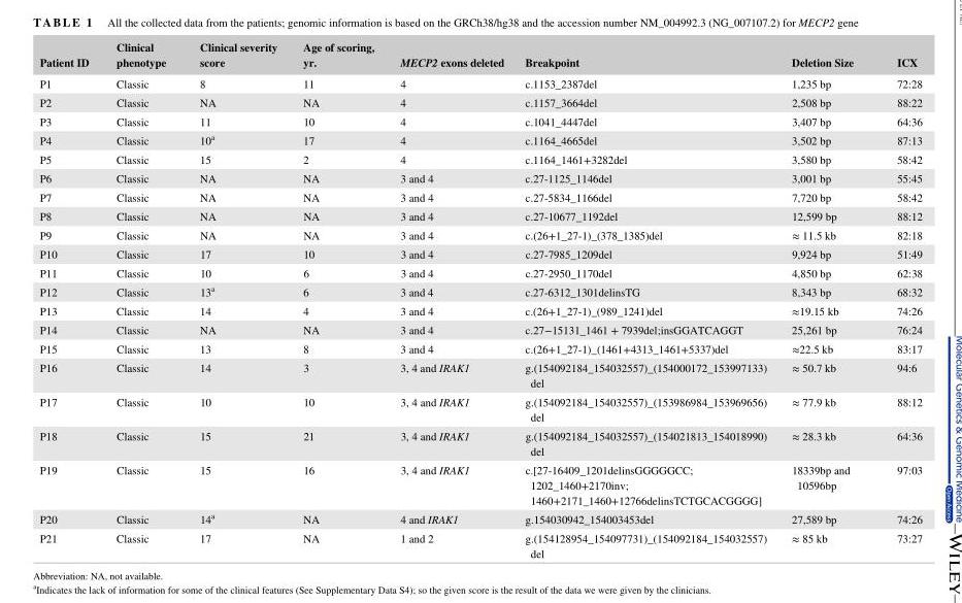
<table><thead><tr><td>Patient ID</td><td>Clinical phenotype</td><td>Clinical severity score</td><td>Age of scoring, yr.</td><td>MECP2 exons deleted</td><td>Breakpoint</td><td>Deletion Size</td><td>ICX</td></tr></thead><tbody><tr><td>P1</td><td>Classic</td><td>8</td><td>11</td><td>4</td><td>c.1153_2387del</td><td>1,235 bp</td><td>72:28</td></tr><tr><td>P2</td><td>Classic</td><td>NA</td><td>NA</td><td>4</td><td>c.1157_3664del</td><td>2,508 bp</td><td>88:22</td></tr><tr><td>P3</td><td>Classic</td><td>11</td><td>10</td><td>4</td><td>c.1041_4447del</td><td>3,407 bp</td><td>64:36</td></tr><tr><td>P4</td><td>Classic</td><td>10<sup>a</sup></td><td>17</td><td>4</td><td>c.1164_4665del</td><td>3,502 bp</td><td>87:13</td></tr><tr><td>P5</td><td>Classic</td><td>15</td><td>2</td><td>4</td><td>c.1164_1461+3282del</td><td>3,580 bp</td><td>58:42</td></tr><tr><td>P6</td><td>Classic</td><td>NA</td><td>NA</td><td>3 and 4</td><td>c.27‐1125_1146del</td><td>3,001 bp</td><td>55:45</td></tr><tr><td>P7</td><td>Classic</td><td>NA</td><td>NA</td><td>3 and 4</td><td>c.27‐5834_1166del</td><td>7,720 bp</td><td>58:42</td></tr><tr><td>P8</td><td>Classic</td><td>NA</td><td>NA</td><td>3 and 4</td><td>c.27‐10677_1192del</td><td>12,599 bp</td><td>88:12</td></tr><tr><td>P9</td><td>Classic</td><td>NA</td><td>NA</td><td>3 and 4</td><td>c.(26+1_27‐1)_(378_1385)del</td><td>≈ 11.5 kb</td><td>82:18</td></tr><tr><td>P10</td><td>Classic</td><td>17</td><td>10</td><td>3 and 4</td><td>c.27‐7985_1209del</td><td>9,924 bp</td><td>51:49</td></tr><tr><td>P11</td><td>Classic</td><td>10</td><td>6</td><td>3 and 4</td><td>c.27‐2950_1170del</td><td>4,850 bp</td><td>62:38</td></tr><tr><td>P12</td><td>Classic</td><td>13<sup>a</sup></td><td>6</td><td>3 and 4</td><td>c.27‐6312_1301delinsTG</td><td>8,343 bp</td><td>68:32</td></tr><tr><td>P13</td><td>Classic</td><td>14</td><td>4</td><td>3 and 4</td><td>c.(26+1_27‐1)_(989_1241)del</td><td>≈19.15 kb</td><td>74:26</td></tr><tr><td>P14</td><td>Classic</td><td>NA</td><td>NA</td><td>3 and 4</td><td>c.27−15131_1461 + 7939del;insGGATCAGGT</td><td>25,261 bp</td><td>76:24</td></tr><tr><td>P15</td><td>Classic</td><td>13</td><td>8</td><td>3 and 4</td><td>c.(26+1_27‐1)_(1461+4313_1461+5337)del</td><td>≈22.5 kb</td><td>83:17</td></tr><tr><td>P16</td><td>Classic</td><td>14</td><td>3</td><td>3, 4 and IRAK1</td><td>g.(154092184_154032557)_(154000172_153997133) del</td><td>≈ 50.7 kb</td><td>94:6</td></tr><tr><td>P17</td><td>Classic</td><td>10</td><td>10</td><td>3, 4 and IRAK1</td><td>g.(154092184_154032557)_(153986984_153969656) del</td><td>≈ 77.9 kb</td><td>88:12</td></tr><tr><td>P18</td><td>Classic</td><td>15</td><td>21</td><td>3, 4 and IRAK1</td><td>g.(154092184_154032557)_(154021813_154018990) del</td><td>≈ 28.3 kb</td><td>64:36</td></tr><tr><td>P19</td><td>Classic</td><td>15</td><td>16</td><td>3, 4 and IRAK1</td><td>c.[27‐16409_1201delinsGGGGGCC; 1202_1460+2170inv; 1460+2171_1460+12766delinsTCTGCACGGGG]</td><td>18339bp and 10596bp</td><td>97:03</td></tr><tr><td>P20</td><td>Classic</td><td>14<sup>a</sup></td><td>NA</td><td>4 and IRAK1</td><td>g.154030942_154003453del</td><td>27,589 bp</td><td>74:26</td></tr><tr><td>P21</td><td>Classic</td><td>17</td><td>NA</td><td>1 and 2</td><td>g.(154128954_154097731)_(154092184_154032557) del</td><td>≈ 85 kb</td><td>73:27</td></tr></tbody></table>